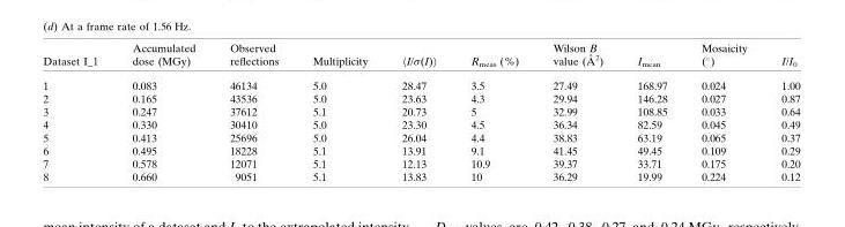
<table><thead><tr><td>Dataset I_1</td><td>Accumulated dose (MGy)</td><td>Observed reflections</td><td>Multiplicity</td><td>〈I/σ(I)〉</td><td>R<sub>meas</sub> (%)</td><td>Wilson B value (A˚ 2)</td><td>I<sub>mean</sub></td><td>Mosaicity (°)</td><td>I/I<sub>0</sub></td></tr></thead><tbody><tr><td>1</td><td>0.083</td><td>46134</td><td>5.0</td><td>28.47</td><td>3.5</td><td>27.49</td><td>168.97</td><td>0.024</td><td>1.00</td></tr><tr><td>2</td><td>0.165</td><td>43536</td><td>5.0</td><td>23.63</td><td>4.3</td><td>29.94</td><td>146.28</td><td>0.027</td><td>0.87</td></tr><tr><td>3</td><td>0.247</td><td>37612</td><td>5.1</td><td>20.73</td><td>5</td><td>32.99</td><td>108.85</td><td>0.033</td><td>0.64</td></tr><tr><td>4</td><td>0.330</td><td>30410</td><td>5.0</td><td>23.30</td><td>4.5</td><td>36.34</td><td>82.59</td><td>0.045</td><td>0.49</td></tr><tr><td>5</td><td>0.413</td><td>25696</td><td>5.0</td><td>26.04</td><td>4.4</td><td>38.83</td><td>63.19</td><td>0.065</td><td>0.37</td></tr><tr><td>6</td><td>0.495</td><td>18228</td><td>5.1</td><td>13.91</td><td>9.1</td><td>41.45</td><td>49.45</td><td>0.109</td><td>0.29</td></tr><tr><td>7</td><td>0.578</td><td>12071</td><td>5.1</td><td>12.13</td><td>10.9</td><td>39.37</td><td>33.71</td><td>0.175</td><td>0.20</td></tr><tr><td>8</td><td>0.660</td><td>9051</td><td>5.1</td><td>13.83</td><td>10</td><td>36.29</td><td>19.99</td><td>0.224</td><td>0.12</td></tr></tbody></table>